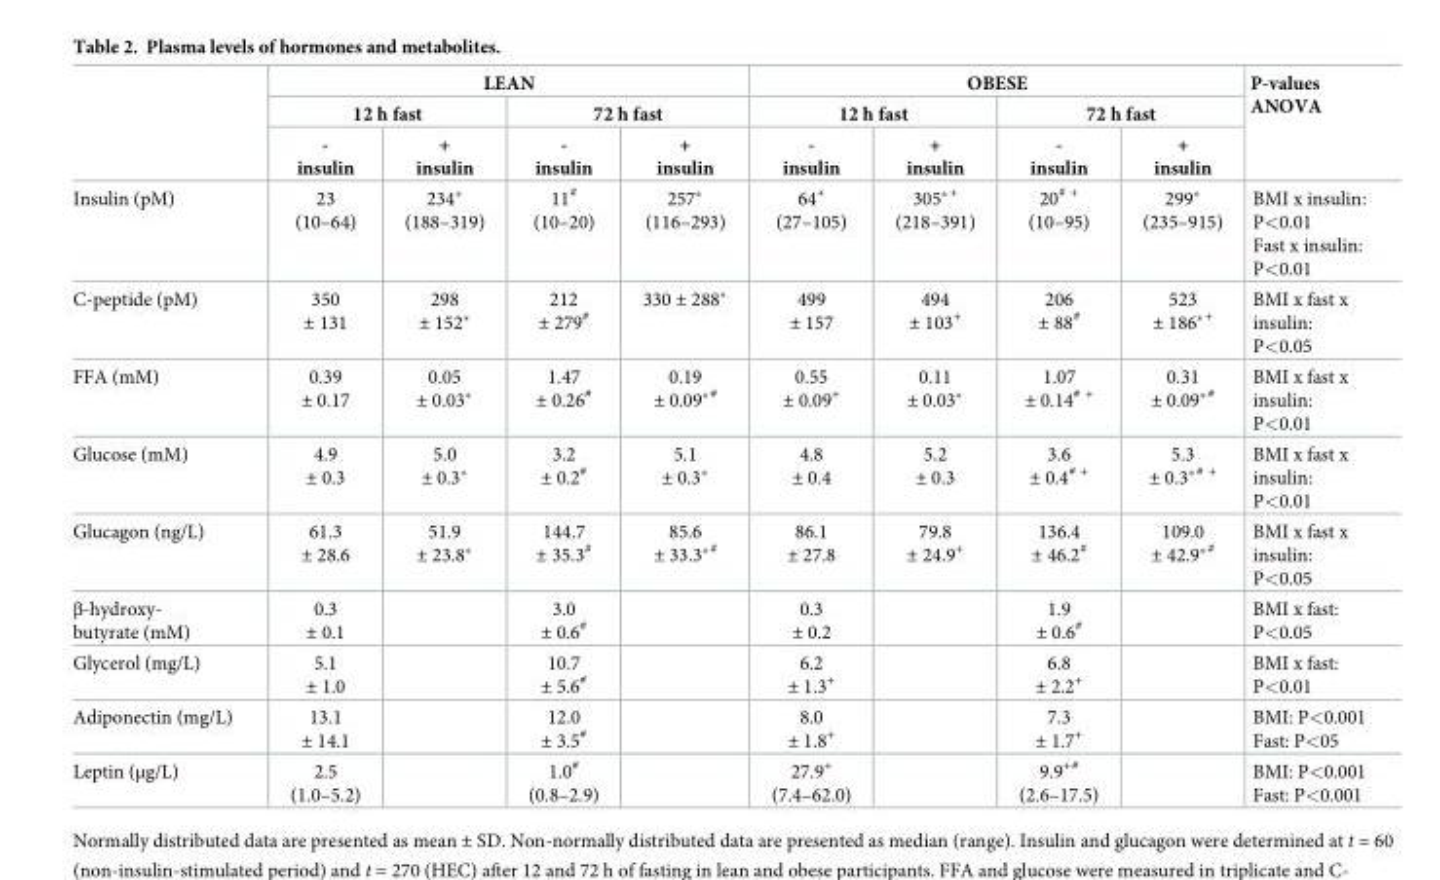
<table><thead><tr><td rowspan="3"></td><td colspan="4">LEAN</td><td colspan="4">OBESE</td><td rowspan="3">P-values ANOVA</td></tr><tr><td colspan="2">12 h fast</td><td colspan="2">72 h fast</td><td colspan="2">12 h fast</td><td colspan="2">72 h fast</td></tr><tr><td>- insulin</td><td>+ insulin</td><td>- insulin</td><td>+ insulin</td><td>- insulin</td><td>+ insulin</td><td>- insulin</td><td>+ insulin</td></tr></thead><tbody><tr><td>Insulin (pM)</td><td>23 (10–64)</td><td>234* (188–319)</td><td>11<sup>#</sup> (10–20)</td><td>257* (116–293)</td><td>64<sup>+</sup> (27–105)</td><td>305*<sup>+</sup> (218–391)</td><td>20<sup># +</sup> (10–95)</td><td>299* (235–915)</td><td>BMI x insulin: P&lt;0.01 Fast x insulin: P&lt;0.01</td></tr><tr><td>C-peptide (pM)</td><td>350 ± 131</td><td>298 ± 152*</td><td>212 ± 279<sup>#</sup></td><td>330 ± 288*</td><td>499 ± 157</td><td>494 ± 103<sup>+</sup></td><td>206 ± 88<sup>#</sup></td><td>523 ± 186*<sup>+</sup></td><td>BMI x fast x insulin: P&lt;0.05</td></tr><tr><td>FFA (mM)</td><td>0.39 ± 0.17</td><td>0.05 ± 0.03*</td><td>1.47 ± 0.26<sup>#</sup></td><td>0.19 ± 0.09*<sup>#</sup></td><td>0.55 ± 0.09<sup>+</sup></td><td>0.11 ± 0.03*</td><td>1.07 ± 0.14<sup># +</sup></td><td>0.31 ± 0.09*<sup>#</sup></td><td>BMI x fast x insulin: P&lt;0.01</td></tr><tr><td>Glucose (mM)</td><td>4.9 ± 0.3</td><td>5.0 ± 0.3*</td><td>3.2 ± 0.2<sup>#</sup></td><td>5.1 ± 0.3*</td><td>4.8 ± 0.4</td><td>5.2 ± 0.3</td><td>3.6 ± 0.4<sup># +</sup></td><td>5.3 ± 0.3*<sup># +</sup></td><td>BMI x fast x insulin: P&lt;0.01</td></tr><tr><td>Glucagon (ng/L)</td><td>61.3 ± 28.6</td><td>51.9 ± 23.8*</td><td>144.7 ± 35.3<sup>#</sup></td><td>85.6 ± 33.3*<sup>#</sup></td><td>86.1 ± 27.8</td><td>79.8 ± 24.9<sup>+</sup></td><td>136.4 ± 46.2<sup>#</sup></td><td>109.0 ± 42.9*<sup>#</sup></td><td>BMI x fast x insulin: P&lt;0.05</td></tr><tr><td>β-hydroxy- butyrate (mM)</td><td>0.3 ± 0.1</td><td></td><td>3.0 ± 0.6<sup>#</sup></td><td></td><td>0.3 ± 0.2</td><td></td><td>1.9 ± 0.6<sup>#</sup></td><td></td><td>BMI x fast: P&lt;0.05</td></tr><tr><td>Glycerol (mg/L)</td><td>5.1 ± 1.0</td><td></td><td>10.7 ± 5.6<sup>#</sup></td><td></td><td>6.2 ± 1.3<sup>+</sup></td><td></td><td>6.8 ± 2.2<sup>+</sup></td><td></td><td>BMI x fast: P&lt;0.01</td></tr><tr><td>Adiponectin (mg/L)</td><td>13.1 ± 14.1</td><td></td><td>12.0 ± 3.5<sup>#</sup></td><td></td><td>8.0 ± 1.8<sup>+</sup></td><td></td><td>7.3 ± 1.7<sup>+</sup></td><td></td><td>BMI: P&lt;0.001 Fast: P&lt;05</td></tr><tr><td>Leptin (μg/L)</td><td>2.5 (1.0–5.2)</td><td></td><td>1.0<sup>#</sup> (0.8–2.9)</td><td></td><td>27.9<sup>+</sup> (7.4–62.0)</td><td></td><td>9.9<sup>+#</sup> (2.6–17.5)</td><td></td><td>BMI: P&lt;0.001 Fast: P&lt;0.001</td></tr></tbody></table>